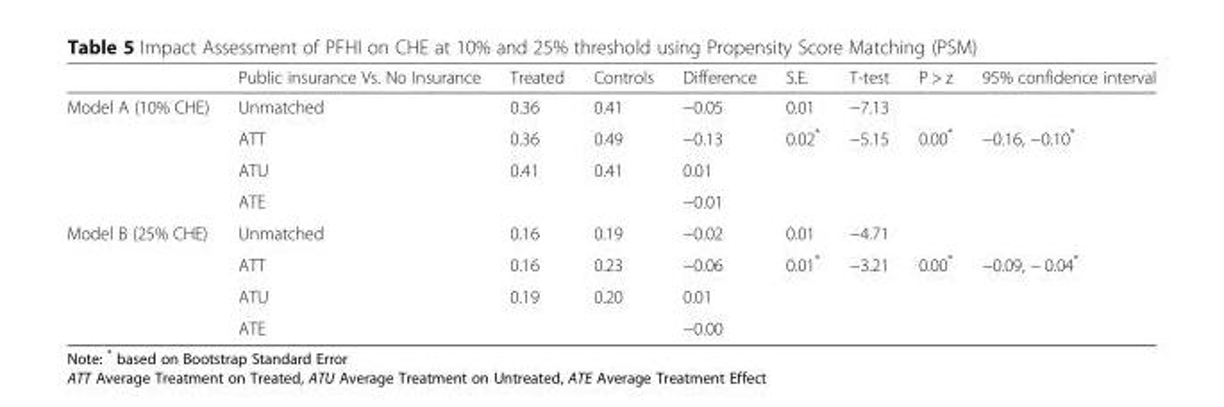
<table><thead><tr><td></td><td>Public insurance Vs. No Insurance</td><td>Treated</td><td>Controls</td><td>Difference</td><td>S.E.</td><td>T-test</td><td>P &gt; z</td><td>95% confidence interval</td></tr></thead><tbody><tr><td rowspan="4">Model A (10% CHE)</td><td>Unmatched</td><td>0.36</td><td>0.41</td><td>−0.05</td><td>0.01</td><td>−7.13</td><td></td><td></td></tr><tr><td>ATT</td><td>0.36</td><td>0.49</td><td>−0.13</td><td>0.02*</td><td>−5.15</td><td>0.00*</td><td>−0.16, −0.10*</td></tr><tr><td>ATU</td><td>0.41</td><td>0.41</td><td>0.01</td><td></td><td></td><td></td><td></td></tr><tr><td>ATE</td><td></td><td></td><td>−0.01</td><td></td><td></td><td></td><td></td></tr><tr><td rowspan="4">Model B (25% CHE)</td><td>Unmatched</td><td>0.16</td><td>0.19</td><td>−0.02</td><td>0.01</td><td>−4.71</td><td></td><td></td></tr><tr><td>ATT</td><td>0.16</td><td>0.23</td><td>−0.06</td><td>0.01*</td><td>−3.21</td><td>0.00*</td><td>−0.09, − 0.04*</td></tr><tr><td>ATU</td><td>0.19</td><td>0.20</td><td>0.01</td><td></td><td></td><td></td><td></td></tr><tr><td>ATE</td><td></td><td></td><td>−0.00</td><td></td><td></td><td></td><td></td></tr></tbody></table>